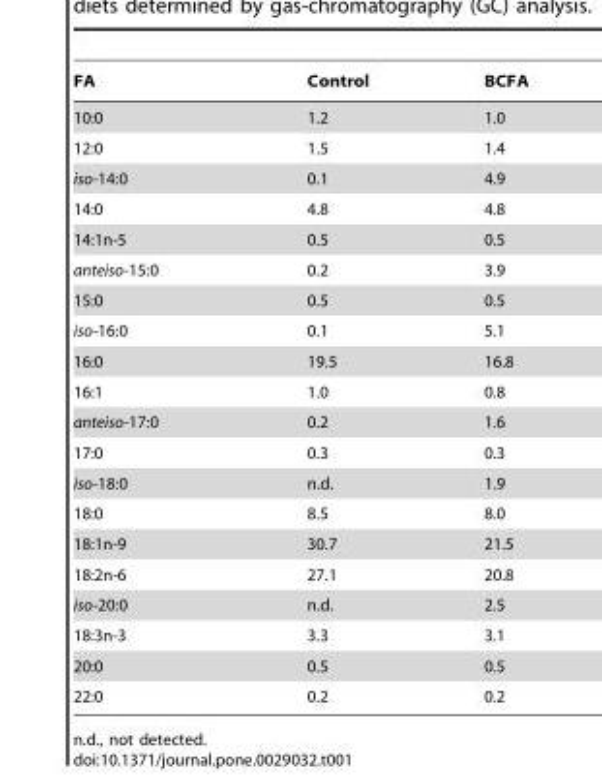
<table><thead><tr><td>FA</td><td>Control</td><td>BCFA</td></tr></thead><tbody><tr><td>10:0</td><td>1.2</td><td>1.0</td></tr><tr><td>12:0</td><td>1.5</td><td>1.4</td></tr><tr><td>iso-14:0</td><td>0.1</td><td>4.9</td></tr><tr><td>14:0</td><td>4.8</td><td>4.8</td></tr><tr><td>14:1n-5</td><td>0.5</td><td>0.5</td></tr><tr><td>anteiso-15:0</td><td>0.2</td><td>3.9</td></tr><tr><td>15:0</td><td>0.5</td><td>0.5</td></tr><tr><td>iso-16:0</td><td>0.1</td><td>5.1</td></tr><tr><td>16:0</td><td>19.5</td><td>16.8</td></tr><tr><td>16:1</td><td>1.0</td><td>0.8</td></tr><tr><td>anteiso-17:0</td><td>0.2</td><td>1.6</td></tr><tr><td>17:0</td><td>0.3</td><td>0.3</td></tr><tr><td>iso-18:0</td><td>n.d.</td><td>1.9</td></tr><tr><td>18:0</td><td>8.5</td><td>8.0</td></tr><tr><td>18:1n-9</td><td>30.7</td><td>21.5</td></tr><tr><td>18:2n-6</td><td>27.1</td><td>20.8</td></tr><tr><td>iso-20:0</td><td>n.d.</td><td>2.5</td></tr><tr><td>18:3n-3</td><td>3.3</td><td>3.1</td></tr><tr><td>20:0</td><td>0.5</td><td>0.5</td></tr><tr><td>22:0</td><td>0.2</td><td>0.2</td></tr></tbody></table>